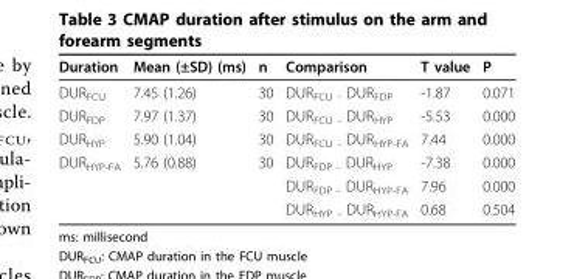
<table><thead><tr><td>Duration</td><td>Mean (±SD) (ms)</td><td>n</td><td>Comparison</td><td>T value</td><td>P</td></tr></thead><tbody><tr><td>DUR<sub>FCU</sub></td><td>7.45 (1.26)</td><td>30</td><td>DUR<sub>FCU -</sub> DUR<sub>FDP</sub></td><td>-1.87</td><td>0.071</td></tr><tr><td>DUR<sub>FDP</sub></td><td>7.97 (1.37)</td><td>30</td><td>DUR<sub>FCU -</sub> DUR<sub>HYP</sub></td><td>-5.53</td><td>0.000</td></tr><tr><td>DUR<sub>HYP</sub></td><td>5.90 (1.04)</td><td>30</td><td>DUR<sub>FCU -</sub> DUR<sub>HYP-FA</sub></td><td>7.44</td><td>0.000</td></tr><tr><td rowspan="3">DUR<sub>HYP-FA</sub></td><td>5.76 (0.88)</td><td>30</td><td>DUR<sub>FDP -</sub> DUR<sub>HYP</sub></td><td>-7.38</td><td>0.000</td></tr><tr><td></td><td></td><td>DUR<sub>FDP -</sub> DUR<sub>HYP-FA</sub></td><td>7.96</td><td>0.000</td></tr><tr><td></td><td></td><td>DUR<sub>HYP -</sub> DUR<sub>HYP-FA</sub></td><td>0.68</td><td>0.504</td></tr></tbody></table>